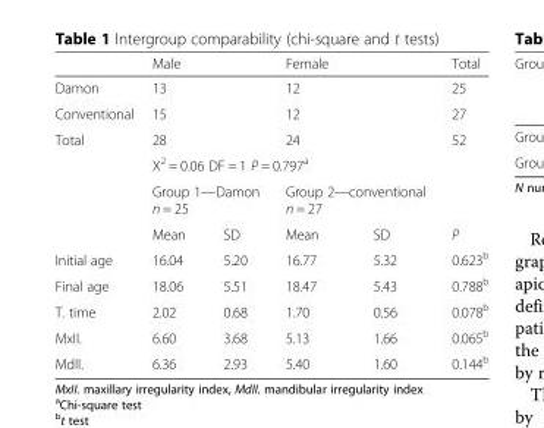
<table><thead><tr><td></td><td colspan="2">Male</td><td colspan="2">Female</td><td>Total</td></tr></thead><tbody><tr><td>Damon</td><td colspan="2">13</td><td colspan="2">12</td><td>25</td></tr><tr><td>Conventional</td><td colspan="2">15</td><td colspan="2">12</td><td>27</td></tr><tr><td rowspan="4">Total</td><td colspan="2">28</td><td colspan="2">24</td><td>52</td></tr><tr><td colspan="5">X<sup>2</sup> = 0.06 DF = 1 P = 0.797<sup>a</sup></td></tr><tr><td colspan="2">Group 1—Damon n = 25</td><td colspan="2">Group 2—conventional n = 27</td><td></td></tr><tr><td>Mean</td><td>SD</td><td>Mean</td><td>SD</td><td>P</td></tr><tr><td>Initial age</td><td>16.04</td><td>5.20</td><td>16.77</td><td>5.32</td><td>0.623<sup>b</sup></td></tr><tr><td>Final age</td><td>18.06</td><td>5.51</td><td>18.47</td><td>5.43</td><td>0.788<sup>b</sup></td></tr><tr><td>T. time</td><td>2.02</td><td>0.68</td><td>1.70</td><td>0.56</td><td>0.078<sup>b</sup></td></tr><tr><td>MxII.</td><td>6.60</td><td>3.68</td><td>5.13</td><td>1.66</td><td>0.065<sup>b</sup></td></tr><tr><td>MdII.</td><td>6.36</td><td>2.93</td><td>5.40</td><td>1.60</td><td>0.144<sup>b</sup></td></tr></tbody></table>